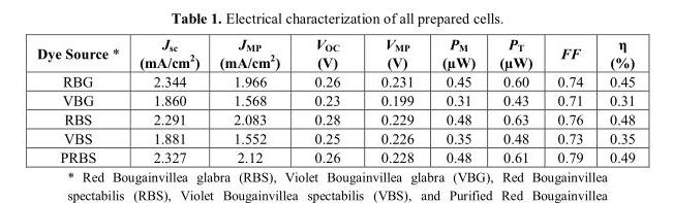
<table><thead><tr><td>Dye Source *</td><td>J<sub>sc</sub> (mA/cm<sup>2</sup>)</td><td>J<sub>MP</sub> (mA/cm<sup>2</sup>)</td><td>V<sub>OC</sub> (V)</td><td>V<sub>MP</sub> (V)</td><td>P<sub>M</sub> (µW)</td><td>P<sub>T</sub> (µW)</td><td>FF</td><td>η (%)</td></tr></thead><tbody><tr><td>RBG</td><td>2.344</td><td>1.966</td><td>0.26</td><td>0.231</td><td>0.45</td><td>0.60</td><td>0.74</td><td>0.45</td></tr><tr><td>VBG</td><td>1.860</td><td>1.568</td><td>0.23</td><td>0.199</td><td>0.31</td><td>0.43</td><td>0.71</td><td>0.31</td></tr><tr><td>RBS</td><td>2.291</td><td>2.083</td><td>0.28</td><td>0.229</td><td>0.48</td><td>0.63</td><td>0.76</td><td>0.48</td></tr><tr><td>VBS</td><td>1.881</td><td>1.552</td><td>0.25</td><td>0.226</td><td>0.35</td><td>0.48</td><td>0.73</td><td>0.35</td></tr><tr><td>PRBS</td><td>2.327</td><td>2.12</td><td>0.26</td><td>0.228</td><td>0.48</td><td>0.61</td><td>0.79</td><td>0.49</td></tr></tbody></table>